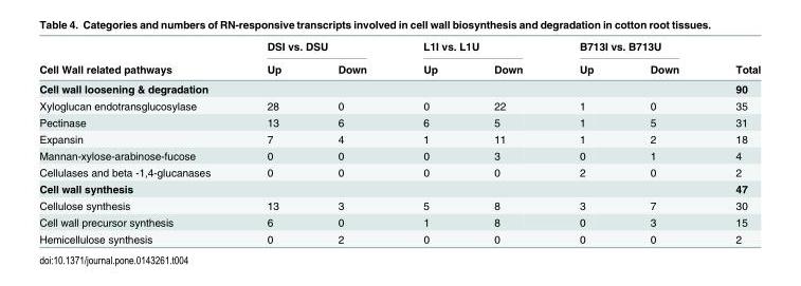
<table><thead><tr><td rowspan="2">Cell Wall related pathways</td><td colspan="2">DSI vs. DSU</td><td colspan="2">L1I vs. L1U</td><td colspan="2">B713I vs. B713U</td><td rowspan="2">Total</td></tr><tr><td>Up</td><td>Down</td><td>Up</td><td>Down</td><td>Up</td><td>Down</td></tr></thead><tbody><tr><td colspan="7">Cell wall loosening &amp; degradation</td><td>90</td></tr><tr><td>Xyloglucan endotransglucosylase</td><td>28</td><td>0</td><td>0</td><td>22</td><td>1</td><td>0</td><td>35</td></tr><tr><td>Pectinase</td><td>13</td><td>6</td><td>6</td><td>5</td><td>1</td><td>5</td><td>31</td></tr><tr><td>Expansin</td><td>7</td><td>4</td><td>1</td><td>11</td><td>1</td><td>2</td><td>18</td></tr><tr><td>Mannan-xylose-arabinose-fucose</td><td>0</td><td>0</td><td>0</td><td>3</td><td>0</td><td>1</td><td>4</td></tr><tr><td>Cellulases and beta -1,4-glucanases</td><td>0</td><td>0</td><td>0</td><td>0</td><td>2</td><td>0</td><td>2</td></tr><tr><td colspan="7">Cell wall synthesis</td><td>47</td></tr><tr><td>Cellulose synthesis</td><td>13</td><td>3</td><td>5</td><td>8</td><td>3</td><td>7</td><td>30</td></tr><tr><td>Cell wall precursor synthesis</td><td>6</td><td>0</td><td>1</td><td>8</td><td>0</td><td>3</td><td>15</td></tr><tr><td>Hemicellulose synthesis</td><td>0</td><td>2</td><td>0</td><td>0</td><td>0</td><td>0</td><td>2</td></tr></tbody></table>